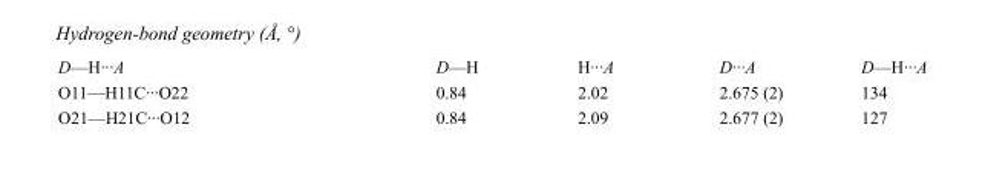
<table><tbody><tr><td>D—H···A</td><td>D—H</td><td>H···A</td><td>D···A</td><td>D—H···A</td></tr><tr><td>O11—H11C···O22</td><td>0.84</td><td>2.02</td><td>2.675 (2)</td><td>134</td></tr><tr><td>O21—H21C···O12</td><td>0.84</td><td>2.09</td><td>2.677 (2)</td><td>127</td></tr></tbody></table>